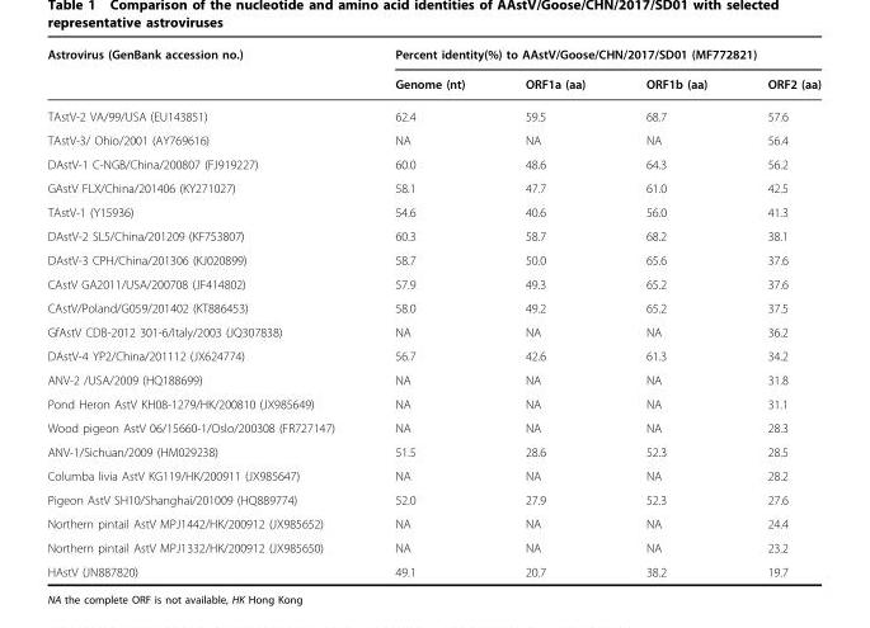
<table><thead><tr><td rowspan="2">Astrovirus (GenBank accession no.)</td><td colspan="4">Percent identity(%) to AAstV/Goose/CHN/2017/SD01 (MF772821)</td></tr><tr><td>Genome (nt)</td><td>ORF1a (aa)</td><td>ORF1b (aa)</td><td>ORF2 (aa)</td></tr></thead><tbody><tr><td>TAstV-2 VA/99/USA (EU143851)</td><td>62.4</td><td>59.5</td><td>68.7</td><td>57.6</td></tr><tr><td>TAstV-3/ Ohio/2001 (AY769616)</td><td>NA</td><td>NA</td><td>NA</td><td>56.4</td></tr><tr><td>DAstV-1 C-NGB/China/200807 (FJ919227)</td><td>60.0</td><td>48.6</td><td>64.3</td><td>56.2</td></tr><tr><td>GAstV FLX/China/201406 (KY271027)</td><td>58.1</td><td>47.7</td><td>61.0</td><td>42.5</td></tr><tr><td>TAstV-1 (Y15936)</td><td>54.6</td><td>40.6</td><td>56.0</td><td>41.3</td></tr><tr><td>DAstV-2 SL5/China/201209 (KF753807)</td><td>60.3</td><td>58.7</td><td>68.2</td><td>38.1</td></tr><tr><td>DAstV-3 CPH/China/201306 (KJ020899)</td><td>58.7</td><td>50.0</td><td>65.6</td><td>37.6</td></tr><tr><td>CAstV GA2011/USA/200708 (JF414802)</td><td>57.9</td><td>49.3</td><td>65.2</td><td>37.6</td></tr><tr><td>CAstV/Poland/G059/201402 (KT886453)</td><td>58.0</td><td>49.2</td><td>65.2</td><td>37.5</td></tr><tr><td>GfAstV CDB-2012 301-6/Italy/2003 (JQ307838)</td><td>NA</td><td>NA</td><td>NA</td><td>36.2</td></tr><tr><td>DAstV-4 YP2/China/201112 (JX624774)</td><td>56.7</td><td>42.6</td><td>61.3</td><td>34.2</td></tr><tr><td>ANV-2 /USA/2009 (HQ188699)</td><td>NA</td><td>NA</td><td>NA</td><td>31.8</td></tr><tr><td>Pond Heron AstV KH08-1279/HK/200810 (JX985649)</td><td>NA</td><td>NA</td><td>NA</td><td>31.1</td></tr><tr><td>Wood pigeon AstV 06/15660-1/Oslo/200308 (FR727147)</td><td>NA</td><td>NA</td><td>NA</td><td>28.3</td></tr><tr><td>ANV-1/Sichuan/2009 (HM029238)</td><td>51.5</td><td>28.6</td><td>52.3</td><td>28.5</td></tr><tr><td>Columba livia AstV KG119/HK/200911 (JX985647)</td><td>NA</td><td>NA</td><td>NA</td><td>28.2</td></tr><tr><td>Pigeon AstV SH10/Shanghai/201009 (HQ889774)</td><td>52.0</td><td>27.9</td><td>52.3</td><td>27.6</td></tr><tr><td>Northern pintail AstV MPJ1442/HK/200912 (JX985652)</td><td>NA</td><td>NA</td><td>NA</td><td>24.4</td></tr><tr><td>Northern pintail AstV MPJ1332/HK/200912 (JX985650)</td><td>NA</td><td>NA</td><td>NA</td><td>23.2</td></tr><tr><td>HAstV (JN887820)</td><td>49.1</td><td>20.7</td><td>38.2</td><td>19.7</td></tr></tbody></table>